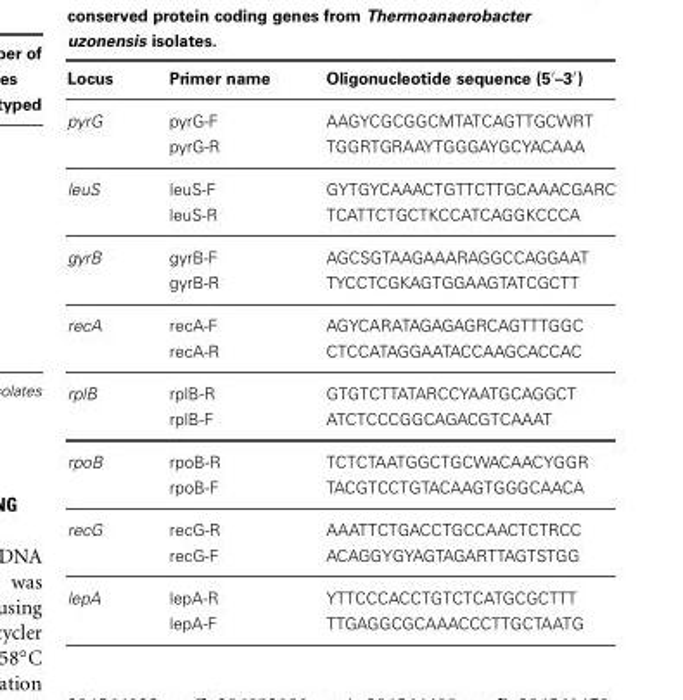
<table><thead><tr><td>Locus</td><td>Primer name</td><td>Oligonucleotide sequence (5′–3′)</td></tr></thead><tbody><tr><td rowspan="2">pyrG</td><td>pyrG-F</td><td>AAGYCGCGGCMTATCAGTTGCWRT</td></tr><tr><td>pyrG-R</td><td>TGGRTGRAAYTGGGAYGCYACAAA</td></tr><tr><td rowspan="2">leuS</td><td>leuS-F</td><td>GYTGYCAAACTGTTCTTGCAAACGARC</td></tr><tr><td>leuS-R</td><td>TCATTCTGCTKCCATCAGGKCCCA</td></tr><tr><td rowspan="2">gyrB</td><td>gyrB-F</td><td>AGCSGTAAGAAARAGGCCAGGAAT</td></tr><tr><td>gyrB-R</td><td>TYCCTCGKAGTGGAAGTATCGCTT</td></tr><tr><td rowspan="2">recA</td><td>recA-F</td><td>AGYCARATAGAGAGRCAGTTTGGC</td></tr><tr><td>recA-R</td><td>CTCCATAGGAATACCAAGCACCAC</td></tr><tr><td rowspan="2">rplB</td><td>rplB-R</td><td>GTGTCTTATARCCYAATGCAGGCT</td></tr><tr><td>rplB-F</td><td>ATCTCCCGGCAGACGTCAAAT</td></tr><tr><td rowspan="2">rpoB</td><td>rpoB-R</td><td>TCTCTAATGGCTGCWACAACYGGR</td></tr><tr><td>rpoB-F</td><td>TACGTCCTGTACAAGTGGGCAACA</td></tr><tr><td rowspan="2">recG</td><td>recG-R</td><td>AAATTCTGACCTGCCAACTCTRCC</td></tr><tr><td>recG-F</td><td>ACAGGYGYAGTAGARTTAGTSTGG</td></tr><tr><td rowspan="2">lepA</td><td>lepA-R</td><td>YTTCCCACCTGTCTCATGCGCTTT</td></tr><tr><td>lepA-F</td><td>TTGAGGCGCAAACCCTTGCTAATG</td></tr></tbody></table>